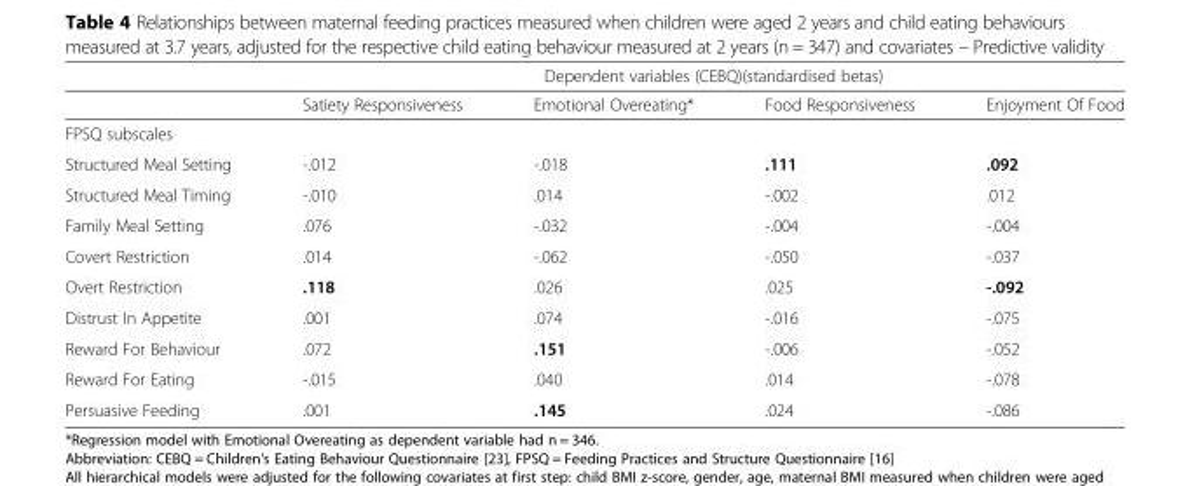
<table><thead><tr><td rowspan="2"></td><td colspan="4">Dependent variables (CEBQ)(standardised betas)</td></tr><tr><td>Satiety Responsiveness</td><td>Emotional Overeating*</td><td>Food Responsiveness</td><td>Enjoyment Of Food</td></tr></thead><tbody><tr><td colspan="5">FPSQ subscales</td></tr><tr><td>Structured Meal Setting</td><td>-.012</td><td>-.018</td><td>.111</td><td>.092</td></tr><tr><td>Structured Meal Timing</td><td>-.010</td><td>.014</td><td>-.002</td><td>.012</td></tr><tr><td>Family Meal Setting</td><td>.076</td><td>-.032</td><td>-.004</td><td>-.004</td></tr><tr><td>Covert Restriction</td><td>.014</td><td>-.062</td><td>-.050</td><td>-.037</td></tr><tr><td>Overt Restriction</td><td>.118</td><td>.026</td><td>.025</td><td>-.092</td></tr><tr><td>Distrust In Appetite</td><td>.001</td><td>.074</td><td>-.016</td><td>-.075</td></tr><tr><td>Reward For Behaviour</td><td>.072</td><td>.151</td><td>-.006</td><td>-.052</td></tr><tr><td>Reward For Eating</td><td>-.015</td><td>.040</td><td>.014</td><td>-.078</td></tr><tr><td>Persuasive Feeding</td><td>.001</td><td>.145</td><td>.024</td><td>-.086</td></tr></tbody></table>